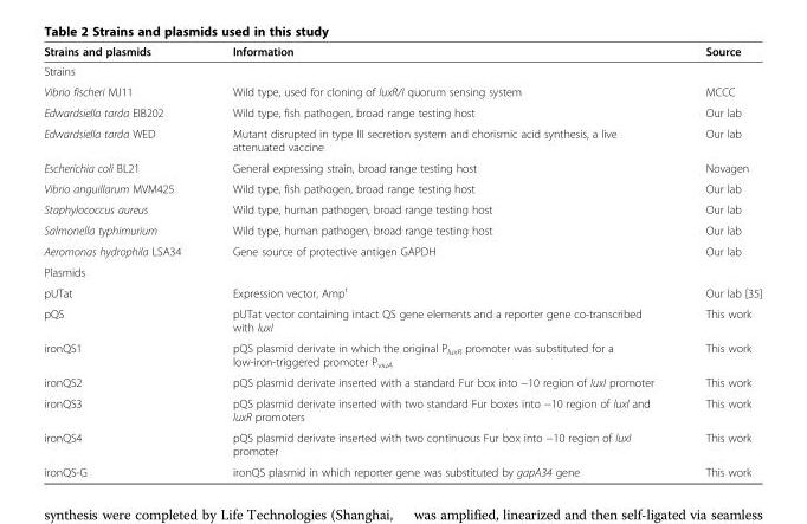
<table><thead><tr><td>Strains and plasmids</td><td>Information</td><td>Source</td></tr></thead><tbody><tr><td colspan="3">Strains</td></tr><tr><td>Vibrio fischeri MJ11</td><td>Wild type, used for cloning of luxR/I quorum sensing system</td><td>MCCC</td></tr><tr><td>Edwardsiella tarda EIB202</td><td>Wild type, fish pathogen, broad range testing host</td><td>Our lab</td></tr><tr><td>Edwardsiella tarda WED</td><td>Mutant disrupted in type III secretion system and chorismic acid synthesis, a live attenuated vaccine</td><td>Our lab</td></tr><tr><td>Escherichia coli BL21</td><td>General expressing strain, broad range testing host</td><td>Novagen</td></tr><tr><td>Vibrio anguillarum MVM425</td><td>Wild type, fish pathogen, broad range testing host</td><td>Our lab</td></tr><tr><td>Staphylococcus aureus</td><td>Wild type, human pathogen, broad range testing host</td><td>Our lab</td></tr><tr><td>Salmonella typhimurium</td><td>Wild type, human pathogen, broad range testing host</td><td>Our lab</td></tr><tr><td>Aeromonas hydrophila LSA34</td><td>Gene source of protective antigen GAPDH</td><td>Our lab</td></tr><tr><td colspan="3">Plasmids</td></tr><tr><td>pUTat</td><td>Expression vector, Amp<sup>r</sup></td><td>Our lab [35]</td></tr><tr><td>pQS</td><td>pUTat vector containing intact QS gene elements and a reporter gene co-transcribed with luxI</td><td>This work</td></tr><tr><td>ironQS1</td><td>pQS plasmid derivate in which the original P<sub>luxR</sub> promoter was substituted for a low-iron-triggered promoter P<sub>viuA</sub></td><td>This work</td></tr><tr><td>ironQS2</td><td>pQS plasmid derivate inserted with a standard Fur box into −10 region of luxI promoter</td><td>This work</td></tr><tr><td>ironQS3</td><td>pQS plasmid derivate inserted with two standard Fur boxes into −10 region of luxI and luxR promoters</td><td>This work</td></tr><tr><td>ironQS4</td><td>pQS plasmid derivate inserted with two continuous Fur box into −10 region of luxI promoter</td><td>This work</td></tr><tr><td>ironQS-G</td><td>ironQS plasmid in which reporter gene was substituted by gapA34 gene</td><td>This work</td></tr></tbody></table>